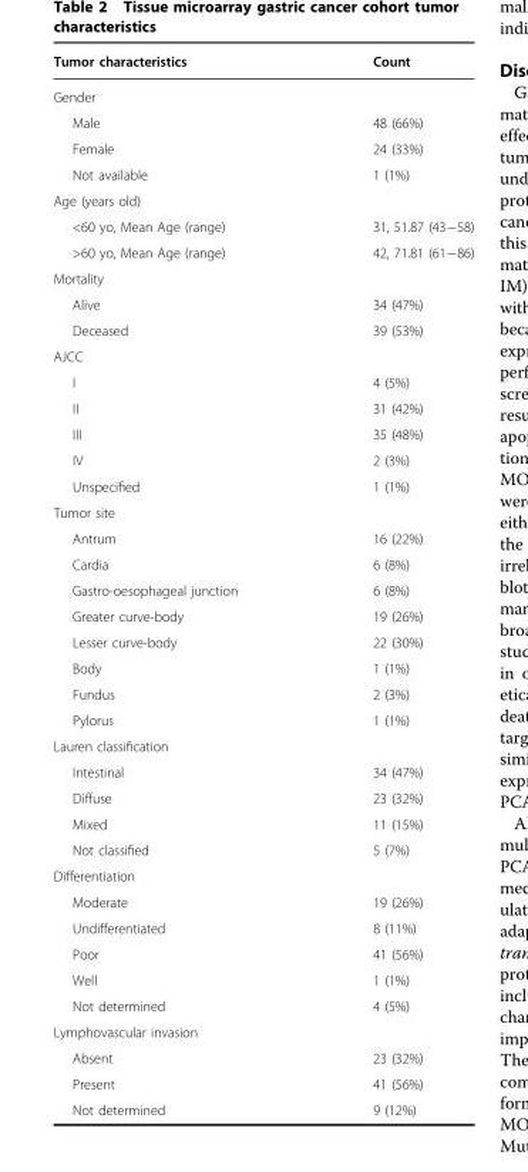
<table><thead><tr><td>Tumor characteristics</td><td>Count</td></tr></thead><tbody><tr><td colspan="2">Gender</td></tr><tr><td>Male</td><td>48 (66%)</td></tr><tr><td>Female</td><td>24 (33%)</td></tr><tr><td>Not available</td><td>1 (1%)</td></tr><tr><td colspan="2">Age (years old)</td></tr><tr><td>&lt;60 yo, Mean Age (range)</td><td>31, 51.87 (43−58)</td></tr><tr><td>&gt;60 yo, Mean Age (range)</td><td>42, 71.81 (61−86)</td></tr><tr><td colspan="2">Mortality</td></tr><tr><td>Alive</td><td>34 (47%)</td></tr><tr><td>Deceased</td><td>39 (53%)</td></tr><tr><td colspan="2">AJCC</td></tr><tr><td>I</td><td>4 (5%)</td></tr><tr><td>II</td><td>31 (42%)</td></tr><tr><td>III</td><td>35 (48%)</td></tr><tr><td>IV</td><td>2 (3%)</td></tr><tr><td>Unspecified</td><td>1 (1%)</td></tr><tr><td colspan="2">Tumor site</td></tr><tr><td>Antrum</td><td>16 (22%)</td></tr><tr><td>Cardia</td><td>6 (8%)</td></tr><tr><td>Gastro-oesophageal junction</td><td>6 (8%)</td></tr><tr><td>Greater curve-body</td><td>19 (26%)</td></tr><tr><td>Lesser curve-body</td><td>22 (30%)</td></tr><tr><td>Body</td><td>1 (1%)</td></tr><tr><td>Fundus</td><td>2 (3%)</td></tr><tr><td>Pylorus</td><td>1 (1%)</td></tr><tr><td colspan="2">Lauren classification</td></tr><tr><td>Intestinal</td><td>34 (47%)</td></tr><tr><td>Diffuse</td><td>23 (32%)</td></tr><tr><td>Mixed</td><td>11 (15%)</td></tr><tr><td>Not classified</td><td>5 (7%)</td></tr><tr><td colspan="2">Differentiation</td></tr><tr><td>Moderate</td><td>19 (26%)</td></tr><tr><td>Undifferentiated</td><td>8 (11%)</td></tr><tr><td>Poor</td><td>41 (56%)</td></tr><tr><td>Well</td><td>1 (1%)</td></tr><tr><td>Not determined</td><td>4 (5%)</td></tr><tr><td colspan="2">Lymphovascular invasion</td></tr><tr><td>Absent</td><td>23 (32%)</td></tr><tr><td>Present</td><td>41 (56%)</td></tr><tr><td>Not determined</td><td>9 (12%)</td></tr></tbody></table>